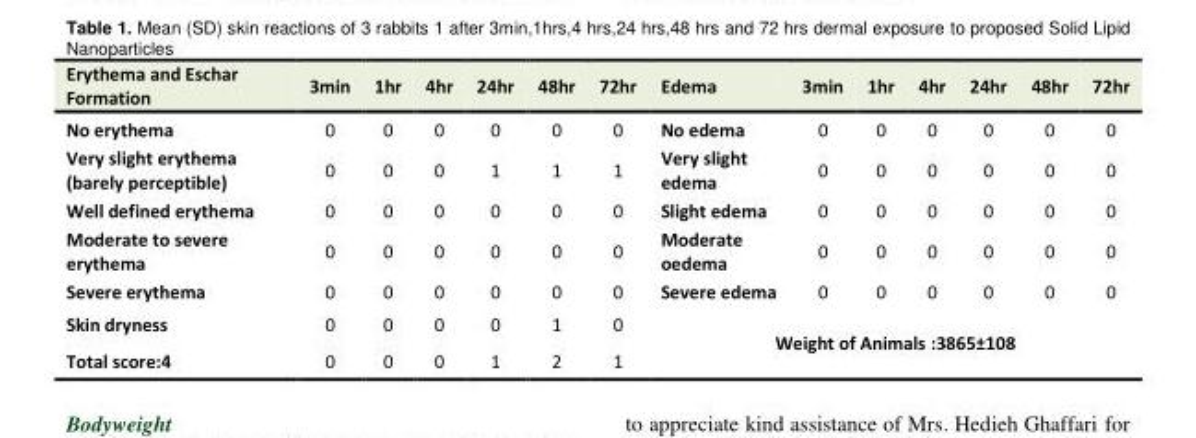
<table><tbody><tr><td>Erythema and Eschar Formation</td><td>3min</td><td>1hr</td><td>4hr</td><td>24hr</td><td>48hr</td><td>72hr</td><td>Edema</td><td>3min</td><td>1hr</td><td>4hr</td><td>24hr</td><td>48hr</td><td>72hr</td></tr><tr><td>No erythema</td><td>0</td><td>0</td><td>0</td><td>0</td><td>0</td><td>0</td><td>No edema</td><td>0</td><td>0</td><td>0</td><td>0</td><td>0</td><td>0</td></tr><tr><td>Very slight erythema (barely perceptible)</td><td>0</td><td>0</td><td>0</td><td>1</td><td>1</td><td>1</td><td>Very slight edema</td><td>0</td><td>0</td><td>0</td><td>0</td><td>0</td><td>0</td></tr><tr><td>Well defined erythema</td><td>0</td><td>0</td><td>0</td><td>0</td><td>0</td><td>0</td><td>Slight edema</td><td>0</td><td>0</td><td>0</td><td>0</td><td>0</td><td>0</td></tr><tr><td>Moderate to severe erythema</td><td>0</td><td>0</td><td>0</td><td>0</td><td>0</td><td>0</td><td>Moderate oedema</td><td>0</td><td>0</td><td>0</td><td>0</td><td>0</td><td>0</td></tr><tr><td>Severe erythema</td><td>0</td><td>0</td><td>0</td><td>0</td><td>0</td><td>0</td><td>Severe edema</td><td>0</td><td>0</td><td>0</td><td>0</td><td>0</td><td>0</td></tr><tr><td>Skin dryness</td><td>0</td><td>0</td><td>0</td><td>0</td><td>1</td><td>0</td><td rowspan="2" colspan="7">Weight of Animals :3865±108</td></tr><tr><td>Total score:4</td><td>0</td><td>0</td><td>0</td><td>1</td><td>2</td><td>1</td></tr></tbody></table>